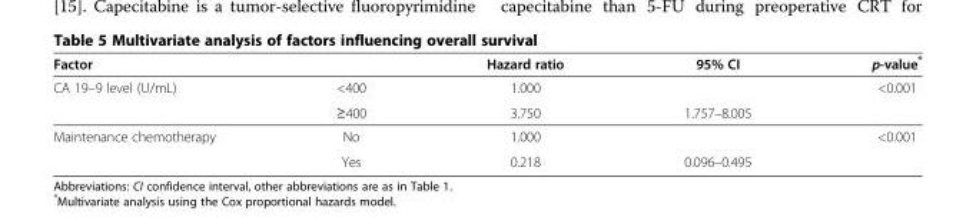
<table><thead><tr><td>Factor</td><td></td><td>Hazard ratio</td><td>95% CI</td><td>p-value*</td></tr></thead><tbody><tr><td rowspan="2">CA 19–9 level (U/mL)</td><td>&lt;400</td><td>1.000</td><td></td><td>&lt;0.001</td></tr><tr><td>≥400</td><td>3.750</td><td>1.757–8.005</td><td></td></tr><tr><td rowspan="2">Maintenance chemotherapy</td><td>No</td><td>1.000</td><td></td><td>&lt;0.001</td></tr><tr><td>Yes</td><td>0.218</td><td>0.096–0.495</td><td></td></tr></tbody></table>